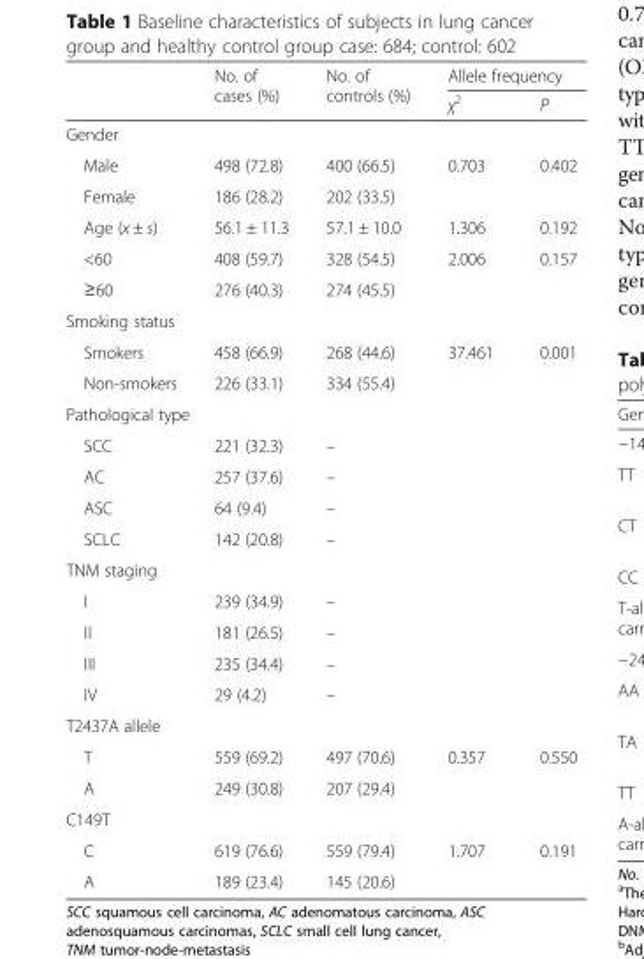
<table><thead><tr><td rowspan="2"></td><td rowspan="2">No. of cases (%)</td><td rowspan="2">No. of controls (%)</td><td colspan="2">Allele frequency</td></tr><tr><td>χ<sup>2</sup></td><td>P</td></tr></thead><tbody><tr><td colspan="5">Gender</td></tr><tr><td>Male</td><td>498 (72.8)</td><td>400 (66.5)</td><td rowspan="2">0.703</td><td rowspan="2">0.402</td></tr><tr><td>Female</td><td>186 (28.2)</td><td>202 (33.5)</td></tr><tr><td>Age (x ± s)</td><td>56.1 ± 11.3</td><td>57.1 ± 10.0</td><td>1.306</td><td>0.192</td></tr><tr><td>&lt;60</td><td>408 (59.7)</td><td>328 (54.5)</td><td rowspan="2">2.006</td><td rowspan="2">0.157</td></tr><tr><td>≥60</td><td>276 (40.3)</td><td>274 (45.5)</td></tr><tr><td colspan="5">Smoking status</td></tr><tr><td>Smokers</td><td>458 (66.9)</td><td>268 (44.6)</td><td rowspan="2">37.461</td><td rowspan="2">0.001</td></tr><tr><td>Non-smokers</td><td>226 (33.1)</td><td>334 (55.4)</td></tr><tr><td colspan="5">Pathological type</td></tr><tr><td>SCC</td><td>221 (32.3)</td><td>–</td><td></td><td></td></tr><tr><td>AC</td><td>257 (37.6)</td><td>–</td><td></td><td></td></tr><tr><td>ASC</td><td>64 (9.4)</td><td>–</td><td></td><td></td></tr><tr><td>SCLC</td><td>142 (20.8)</td><td>–</td><td></td><td></td></tr><tr><td colspan="5">TNM staging</td></tr><tr><td>I</td><td>239 (34.9)</td><td>–</td><td></td><td></td></tr><tr><td>II</td><td>181 (26.5)</td><td>–</td><td></td><td></td></tr><tr><td>III</td><td>235 (34.4)</td><td>–</td><td></td><td></td></tr><tr><td>IV</td><td>29 (4.2)</td><td>–</td><td></td><td></td></tr><tr><td colspan="5">T2437A allele</td></tr><tr><td>T</td><td>559 (69.2)</td><td>497 (70.6)</td><td rowspan="2">0.357</td><td rowspan="2">0.550</td></tr><tr><td>A</td><td>249 (30.8)</td><td>207 (29.4)</td></tr><tr><td colspan="5">C149T</td></tr><tr><td>C</td><td>619 (76.6)</td><td>559 (79.4)</td><td rowspan="2">1.707</td><td rowspan="2">0.191</td></tr><tr><td>A</td><td>189 (23.4)</td><td>145 (20.6)</td></tr></tbody></table>